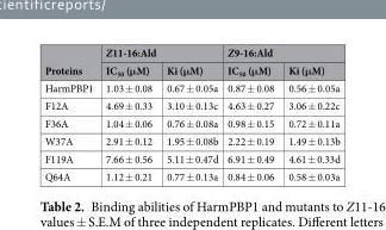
<table><thead><tr><td rowspan="2">Proteins</td><td colspan="2">Z11-16:Ald</td><td colspan="2">Z9-16:Ald</td></tr><tr><td>IC<sub>50</sub> (μM)</td><td>Ki (μM)</td><td>IC<sub>50</sub> (μM)</td><td>Ki (μM)</td></tr></thead><tbody><tr><td>HarmPBP1</td><td>1.03 ± 0.08</td><td>0.67 ± 0.05a</td><td>0.87 ± 0.08</td><td>0.56 ± 0.05a</td></tr><tr><td>F12A</td><td>4.69 ± 0.33</td><td>3.10 ± 0.13c</td><td>4.63 ± 0.27</td><td>3.06 ± 0.22c</td></tr><tr><td>F36A</td><td>1.04 ± 0.06</td><td>0.76 ± 0.08a</td><td>0.98 ± 0.15</td><td>0.72 ± 0.11a</td></tr><tr><td>W37A</td><td>2.91 ± 0.12</td><td>1.95 ± 0.08b</td><td>2.22 ± 0.19</td><td>1.49 ± 0.13b</td></tr><tr><td>F119A</td><td>7.66 ± 0.56</td><td>5.11 ± 0.47d</td><td>6.91 ± 0.49</td><td>4.61 ± 0.33d</td></tr><tr><td>Q64A</td><td>1.12 ± 0.21</td><td>0.77 ± 0.13a</td><td>0.84 ± 0.06</td><td>0.58 ± 0.03a</td></tr></tbody></table>